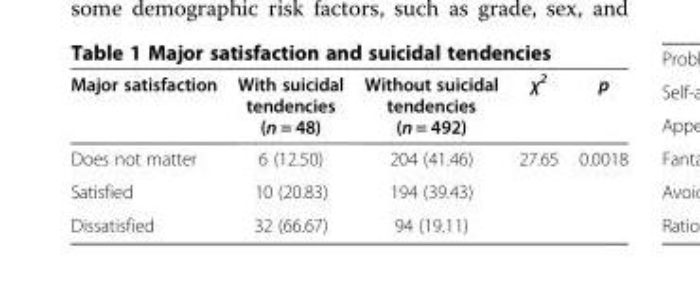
<table><thead><tr><td>Major satisfaction</td><td>With suicidal tendencies (n = 48)</td><td>Without suicidal tendencies (n = 492)</td><td>χ<sup>2</sup></td><td>p</td></tr></thead><tbody><tr><td>Does not matter</td><td>6 (12.50)</td><td>204 (41.46)</td><td rowspan="3">27.65</td><td rowspan="3">0.0018</td></tr><tr><td>Satisfied</td><td>10 (20.83)</td><td>194 (39.43)</td></tr><tr><td>Dissatisfied</td><td>32 (66.67)</td><td>94 (19.11)</td></tr></tbody></table>